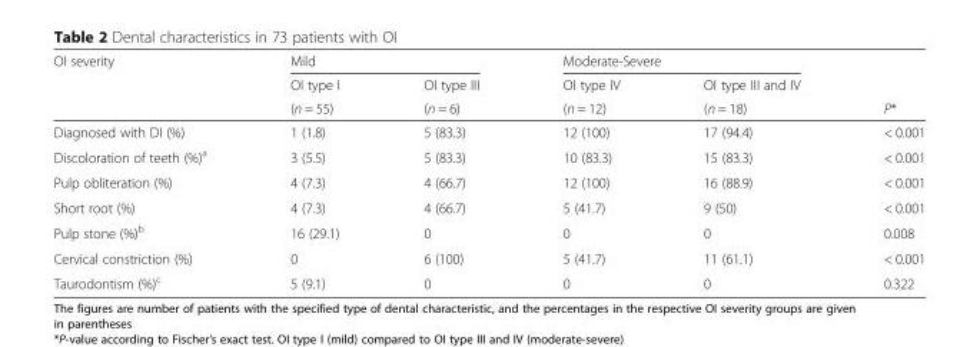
<table><thead><tr><td rowspan="3">OI severity</td><td colspan="2">Mild</td><td colspan="2">Moderate-Severe</td><td rowspan="3">P*</td></tr><tr><td rowspan="2">OI type I (n = 55)</td><td rowspan="2">OI type III (n = 6)</td><td rowspan="2">OI type IV (n = 12)</td><td rowspan="2">OI type III and IV (n = 18)</td></tr><tr></tr></thead><tbody><tr><td>Diagnosed with DI (%)</td><td>1 (1.8)</td><td>5 (83.3)</td><td>12 (100)</td><td>17 (94.4)</td><td>&lt; 0.001</td></tr><tr><td>Discoloration of teeth (%)<sup>a</sup></td><td>3 (5.5)</td><td>5 (83.3)</td><td>10 (83.3)</td><td>15 (83.3)</td><td>&lt; 0.001</td></tr><tr><td>Pulp obliteration (%)</td><td>4 (7.3)</td><td>4 (66.7)</td><td>12 (100)</td><td>16 (88.9)</td><td>&lt; 0.001</td></tr><tr><td>Short root (%)</td><td>4 (7.3)</td><td>4 (66.7)</td><td>5 (41.7)</td><td>9 (50)</td><td>&lt; 0.001</td></tr><tr><td>Pulp stone (%)<sup>b</sup></td><td>16 (29.1)</td><td>0</td><td>0</td><td>0</td><td>0.008</td></tr><tr><td>Cervical constriction (%)</td><td>0</td><td>6 (100)</td><td>5 (41.7)</td><td>11 (61.1)</td><td>&lt; 0.001</td></tr><tr><td>Taurodontism (%)<sup>c</sup></td><td>5 (9.1)</td><td>0</td><td>0</td><td>0</td><td>0.322</td></tr></tbody></table>